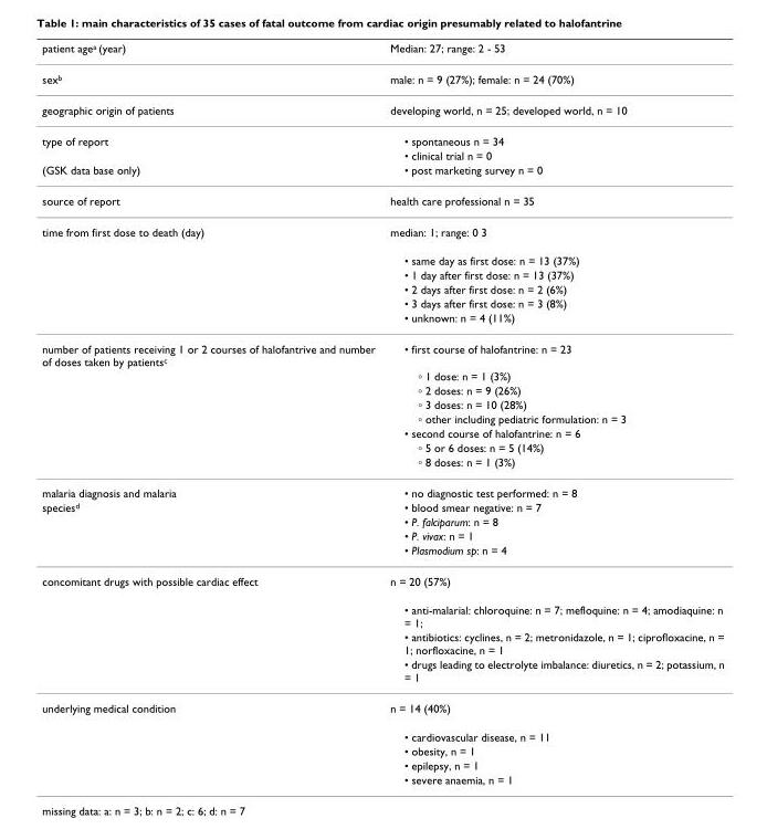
<table><thead><tr><td>patient age<sup>a</sup> (year)</td><td>Median: 27; range: 2 - 53</td></tr></thead><tbody><tr><td>sex<sup>b</sup></td><td>male: n = 9 (27%); female: n = 24 (70%)</td></tr><tr><td>geographic origin of patients</td><td>developing world, n = 25; developed world, n = 10</td></tr><tr><td rowspan="2">type of report</td><td>• spontaneous n = 34</td></tr><tr><td>• clinical trial n = 0</td></tr><tr><td>(GSK data base only)</td><td>• post marketing survey n = 0</td></tr><tr><td>source of report</td><td>health care professional n = 35</td></tr><tr><td rowspan="6">time from first dose to death (day)</td><td>median: 1; range: 0 3</td></tr><tr><td>• same day as first dose: n = 13 (37%)</td></tr><tr><td>• 1 day after first dose: n = 13 (37%)</td></tr><tr><td>• 2 days after first dose: n = 2 (6%)</td></tr><tr><td>• 3 days after first dose: n = 3 (8%)</td></tr><tr><td>• unknown: n = 4 (11%)</td></tr><tr><td rowspan="8">number of patients receiving 1 or 2 courses of halofantrive and number of doses taken by patients<sup>c</sup></td><td>• first course of halofantrine: n = 23</td></tr><tr><td>◦ 1 dose: n = 1 (3%)</td></tr><tr><td>◦ 2 doses: n = 9 (26%)</td></tr><tr><td>◦ 3 doses: n = 10 (28%)</td></tr><tr><td>◦ other including pediatric formulation: n = 3</td></tr><tr><td>• second course of halofantrine: n = 6</td></tr><tr><td>◦ 5 or 6 doses: n = 5 (14%)</td></tr><tr><td>◦ 8 doses: n = 1 (3%)</td></tr><tr><td>malaria diagnosis and malaria</td><td>• no diagnostic test performed: n = 8</td></tr><tr><td rowspan="4">species<sup>d</sup></td><td>• blood smear negative: n = 7</td></tr><tr><td>• P. falciparum: n = 8</td></tr><tr><td>• P. vivax: n = 1</td></tr><tr><td>• Plasmodium sp: n = 4</td></tr><tr><td rowspan="4">concomitant drugs with possible cardiac effect</td><td>n = 20 (57%)</td></tr><tr><td>• anti-malarial: chloroquine: n = 7; mefloquine: n = 4; amodiaquine: n = 1;</td></tr><tr><td>• antibiotics: cyclines, n = 2; metronidazole, n = 1; ciprofloxacine, n = 1; norfloxacine, n = 1</td></tr><tr><td>• drugs leading to electrolyte imbalance: diuretics, n = 2; potassium, n = 1</td></tr><tr><td rowspan="5">underlying medical condition</td><td>n = 14 (40%)</td></tr><tr><td>• cardiovascular disease, n = 11</td></tr><tr><td>• obesity, n = 1</td></tr><tr><td>• epilepsy, n = 1</td></tr><tr><td>• severe anaemia, n = 1</td></tr></tbody></table>